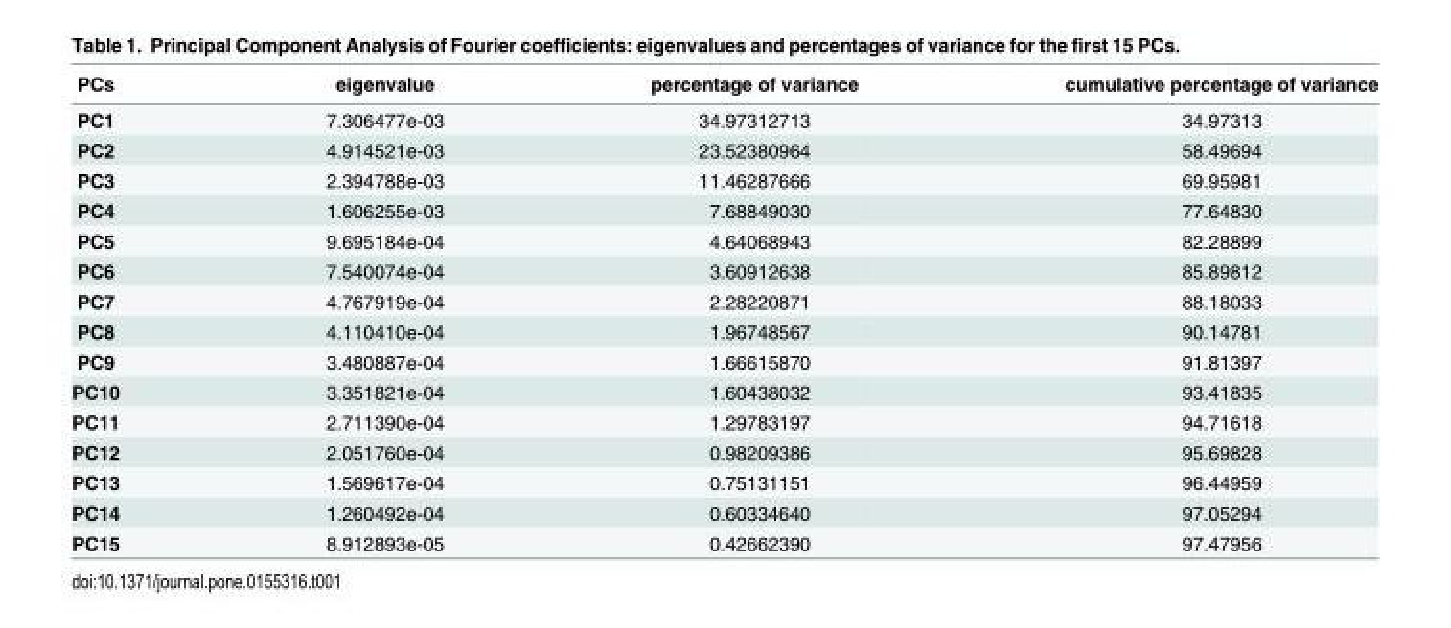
<table><thead><tr><td>PCs</td><td>eigenvalue</td><td>percentage of variance</td><td>cumulative percentage of variance</td></tr></thead><tbody><tr><td>PC1</td><td>7.306477e-03</td><td>34.97312713</td><td>34.97313</td></tr><tr><td>PC2</td><td>4.914521e-03</td><td>23.52380964</td><td>58.49694</td></tr><tr><td>PC3</td><td>2.394788e-03</td><td>11.46287666</td><td>69.95981</td></tr><tr><td>PC4</td><td>1.606255e-03</td><td>7.68849030</td><td>77.64830</td></tr><tr><td>PC5</td><td>9.695184e-04</td><td>4.64068943</td><td>82.28899</td></tr><tr><td>PC6</td><td>7.540074e-04</td><td>3.60912638</td><td>85.89812</td></tr><tr><td>PC7</td><td>4.767919e-04</td><td>2.28220871</td><td>88.18033</td></tr><tr><td>PC8</td><td>4.110410e-04</td><td>1.96748567</td><td>90.14781</td></tr><tr><td>PC9</td><td>3.480887e-04</td><td>1.66615870</td><td>91.81397</td></tr><tr><td>PC10</td><td>3.351821e-04</td><td>1.60438032</td><td>93.41835</td></tr><tr><td>PC11</td><td>2.711390e-04</td><td>1.29783197</td><td>94.71618</td></tr><tr><td>PC12</td><td>2.051760e-04</td><td>0.98209386</td><td>95.69828</td></tr><tr><td>PC13</td><td>1.569617e-04</td><td>0.75131151</td><td>96.44959</td></tr><tr><td>PC14</td><td>1.260492e-04</td><td>0.60334640</td><td>97.05294</td></tr><tr><td>PC15</td><td>8.912893e-05</td><td>0.42662390</td><td>97.47956</td></tr></tbody></table>